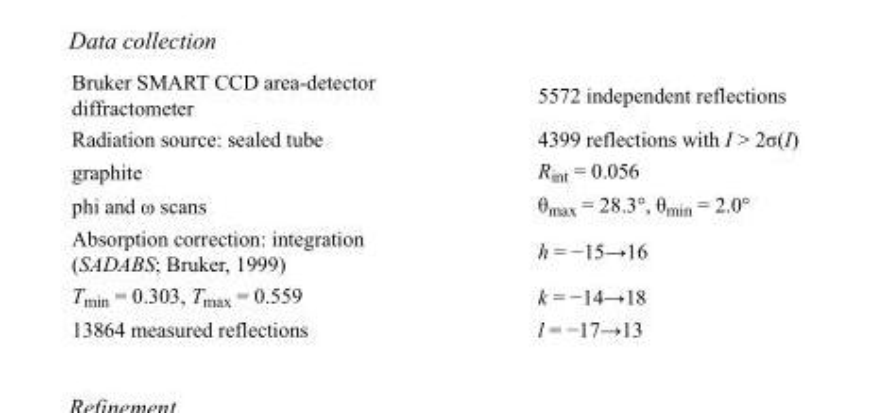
<table><tbody><tr><td>Bruker SMART CCD area-detector diffractometer</td><td>5572 independent reflections</td></tr><tr><td>Radiation source: sealed tube</td><td>4399 reflections with I &gt; 2σ(I)</td></tr><tr><td>graphite</td><td>R<sub>int</sub> = 0.056</td></tr><tr><td>phi and ω scans</td><td>θ<sub>max</sub> = 28.3°, θ<sub>min</sub> = 2.0°</td></tr><tr><td>Absorption correction: integration (SADABS; Bruker, 1999)</td><td>h = −15→16</td></tr><tr><td>T<sub>min</sub> = 0.303, T<sub>max</sub> = 0.559</td><td>k = −14→18</td></tr><tr><td>13864 measured reflections</td><td>l = −17→13</td></tr></tbody></table>